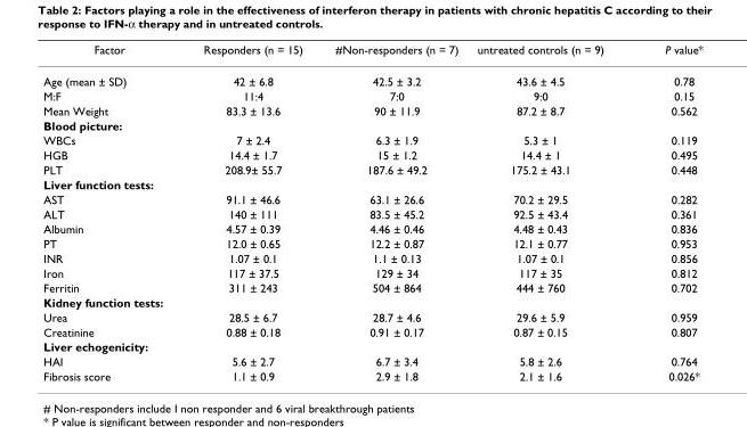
<table><thead><tr><td>Factor</td><td>Responders (n = 15)</td><td>#Non-responders (n = 7)</td><td>untreated controls (n = 9)</td><td>P value*</td></tr></thead><tbody><tr><td>Age (mean ± SD)</td><td>42 ± 6.8</td><td>42.5 ± 3.2</td><td>43.6 ± 4.5</td><td>0.78</td></tr><tr><td>M:F</td><td>11:4</td><td>7:0</td><td>9:0</td><td>0.15</td></tr><tr><td>Mean Weight</td><td>83.3 ± 13.6</td><td>90 ± 11.9</td><td>87.2 ± 8.7</td><td>0.562</td></tr><tr><td colspan="5">Blood picture:</td></tr><tr><td>WBCs</td><td>7 ± 2.4</td><td>6.3 ± 1.9</td><td>5.3 ± 1</td><td>0.119</td></tr><tr><td>HGB</td><td>14.4 ± 1.7</td><td>15 ± 1.2</td><td>14.4 ± 1</td><td>0.495</td></tr><tr><td>PLT</td><td>208.9± 55.7</td><td>187.6 ± 49.2</td><td>175.2 ± 43.1</td><td>0.448</td></tr><tr><td colspan="5">Liver function tests:</td></tr><tr><td>AST</td><td>91.1 ± 46.6</td><td>63.1 ± 26.6</td><td>70.2 ± 29.5</td><td>0.282</td></tr><tr><td>ALT</td><td>140 ± 111</td><td>83.5 ± 45.2</td><td>92.5 ± 43.4</td><td>0.361</td></tr><tr><td>Albumin</td><td>4.57 ± 0.39</td><td>4.46 ± 0.46</td><td>4.48 ± 0.43</td><td>0.836</td></tr><tr><td>PT</td><td>12.0 ± 0.65</td><td>12.2 ± 0.87</td><td>12.1 ± 0.77</td><td>0.953</td></tr><tr><td>INR</td><td>1.07 ± 0.1</td><td>1.1 ± 0.13</td><td>1.07 ± 0.1</td><td>0.856</td></tr><tr><td>Iron</td><td>117 ± 37.5</td><td>129 ± 34</td><td>117 ± 35</td><td>0.812</td></tr><tr><td>Ferritin</td><td>311 ± 243</td><td>504 ± 864</td><td>444 ± 760</td><td>0.702</td></tr><tr><td colspan="5">Kidney function tests:</td></tr><tr><td>Urea</td><td>28.5 ± 6.7</td><td>28.7 ± 4.6</td><td>29.6 ± 5.9</td><td>0.959</td></tr><tr><td>Creatinine</td><td>0.88 ± 0.18</td><td>0.91 ± 0.17</td><td>0.87 ± 0.15</td><td>0.807</td></tr><tr><td colspan="5">Liver echogenicity:</td></tr><tr><td>HAI</td><td>5.6 ± 2.7</td><td>6.7 ± 3.4</td><td>5.8 ± 2.6</td><td>0.764</td></tr><tr><td>Fibrosis score</td><td>1.1 ± 0.9</td><td>2.9 ± 1.8</td><td>2.1 ± 1.6</td><td>0.026*</td></tr></tbody></table>